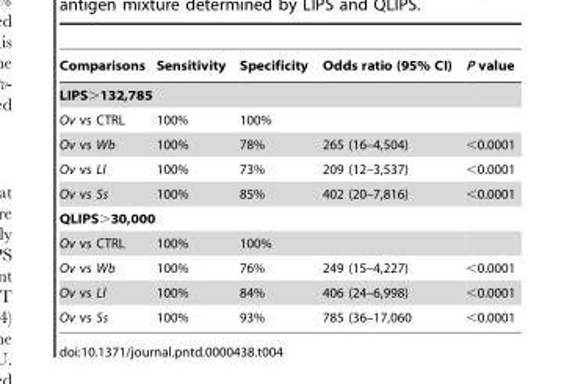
<table><thead><tr><td>Comparisons</td><td>Sensitivity</td><td>Specificity</td><td>Odds ratio (95% CI)</td><td>P value</td></tr></thead><tbody><tr><td colspan="5">LIPS&gt;132,785</td></tr><tr><td>Ov vs CTRL</td><td>100%</td><td>100%</td><td></td><td></td></tr><tr><td>Ov vs Wb</td><td>100%</td><td>78%</td><td>265 (16–4,504)</td><td>&lt;0.0001</td></tr><tr><td>Ov vs Ll</td><td>100%</td><td>73%</td><td>209 (12–3,537)</td><td>&lt;0.0001</td></tr><tr><td>Ov vs Ss</td><td>100%</td><td>85%</td><td>402 (20–7,816)</td><td>&lt;0.0001</td></tr><tr><td colspan="5">QLIPS&gt;30,000</td></tr><tr><td>Ov vs CTRL</td><td>100%</td><td>100%</td><td></td><td></td></tr><tr><td>Ov vs Wb</td><td>100%</td><td>76%</td><td>249 (15–4,227)</td><td>&lt;0.0001</td></tr><tr><td>Ov vs Ll</td><td>100%</td><td>84%</td><td>406 (24–6,998)</td><td>&lt;0.0001</td></tr><tr><td>Ov vs Ss</td><td>100%</td><td>93%</td><td>785 (36–17,060</td><td>&lt;0.0001</td></tr></tbody></table>